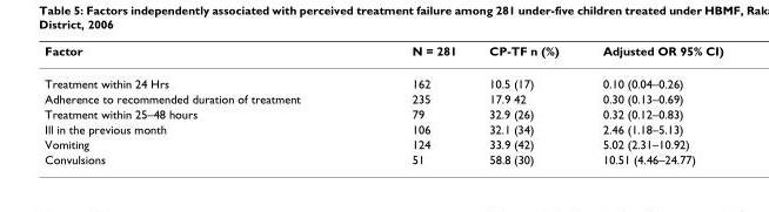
<table><thead><tr><td>Factor</td><td>N = 281</td><td>CP-TF n (%)</td><td>Adjusted OR 95% CI)</td></tr></thead><tbody><tr><td>Treatment within 24 Hrs</td><td>162</td><td>10.5 (17)</td><td>0.10 (0.04–0.26)</td></tr><tr><td>Adherence to recommended duration of treatment</td><td>235</td><td>17.9 42</td><td>0.30 (0.13–0.69)</td></tr><tr><td>Treatment within 25–48 hours</td><td>79</td><td>32.9 (26)</td><td>0.32 (0.12–0.83)</td></tr><tr><td>Ill in the previous month</td><td>106</td><td>32.1 (34)</td><td>2.46 (1.18–5.13)</td></tr><tr><td>Vomiting</td><td>124</td><td>33.9 (42)</td><td>5.02 (2.31–10.92)</td></tr><tr><td>Convulsions</td><td>51</td><td>58.8 (30)</td><td>10.51 (4.46–24.77)</td></tr></tbody></table>